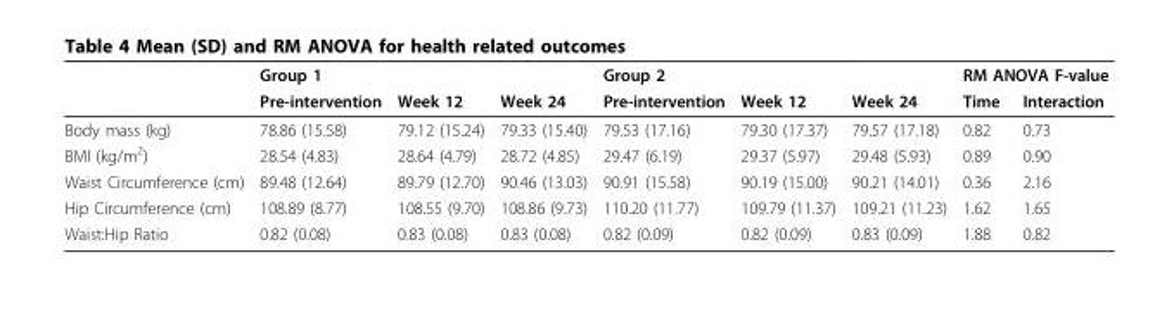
<table><thead><tr><td rowspan="2"></td><td colspan="3">Group 1</td><td colspan="3">Group 2</td><td colspan="2">RM ANOVA F-value</td></tr><tr><td>Pre-intervention</td><td>Week 12</td><td>Week 24</td><td>Pre-intervention</td><td>Week 12</td><td>Week 24</td><td>Time</td><td>Interaction</td></tr></thead><tbody><tr><td>Body mass (kg)</td><td>78.86 (15.58)</td><td>79.12 (15.24)</td><td>79.33 (15.40)</td><td>79.53 (17.16)</td><td>79.30 (17.37)</td><td>79.57 (17.18)</td><td>0.82</td><td>0.73</td></tr><tr><td>BMI (kg/m<sup>2</sup>)</td><td>28.54 (4.83)</td><td>28.64 (4.79)</td><td>28.72 (4.85)</td><td>29.47 (6.19)</td><td>29.37 (5.97)</td><td>29.48 (5.93)</td><td>0.89</td><td>0.90</td></tr><tr><td>Waist Circumference (cm)</td><td>89.48 (12.64)</td><td>89.79 (12.70)</td><td>90.46 (13.03)</td><td>90.91 (15.58)</td><td>90.19 (15.00)</td><td>90.21 (14.01)</td><td>0.36</td><td>2.16</td></tr><tr><td>Hip Circumference (cm)</td><td>108.89 (8.77)</td><td>108.55 (9.70)</td><td>108.86 (9.73)</td><td>110.20 (11.77)</td><td>109.79 (11.37)</td><td>109.21 (11.23)</td><td>1.62</td><td>1.65</td></tr><tr><td>Waist:Hip Ratio</td><td>0.82 (0.08)</td><td>0.83 (0.08)</td><td>0.83 (0.08)</td><td>0.82 (0.09)</td><td>0.82 (0.09)</td><td>0.83 (0.09)</td><td>1.88</td><td>0.82</td></tr></tbody></table>